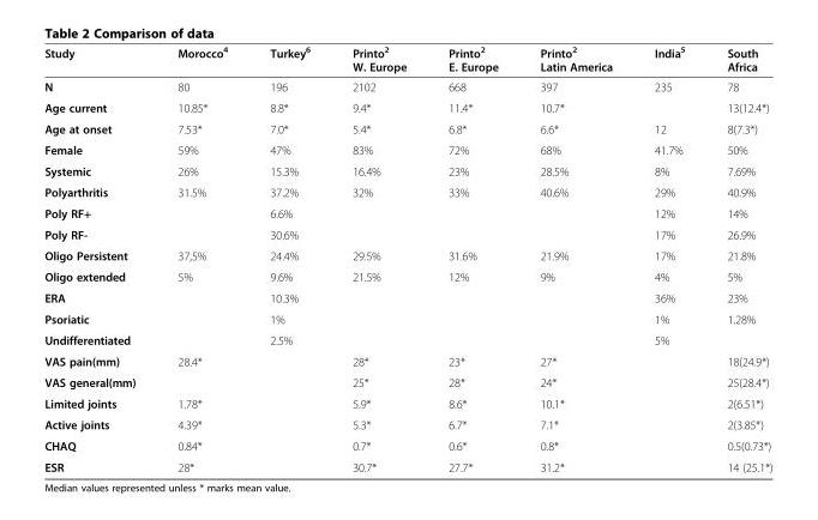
<table><thead><tr><td>Study</td><td>Morocco<sup>4</sup></td><td>Turkey<sup>6</sup></td><td>Printo<sup>2</sup> W. Europe</td><td>Printo<sup>2</sup> E. Europe</td><td>Printo<sup>2</sup> Latin America</td><td>India<sup>5</sup></td><td>South Africa</td></tr></thead><tbody><tr><td>N</td><td>80</td><td>196</td><td>2102</td><td>668</td><td>397</td><td>235</td><td>78</td></tr><tr><td>Age current</td><td>10.85*</td><td>8.8*</td><td>9.4*</td><td>11.4*</td><td>10.7*</td><td></td><td>13(12.4*)</td></tr><tr><td>Age at onset</td><td>7.53*</td><td>7.0*</td><td>5.4*</td><td>6.8*</td><td>6.6*</td><td>12</td><td>8(7.3*)</td></tr><tr><td>Female</td><td>59%</td><td>47%</td><td>83%</td><td>72%</td><td>68%</td><td>41.7%</td><td>50%</td></tr><tr><td>Systemic</td><td>26%</td><td>15.3%</td><td>16.4%</td><td>23%</td><td>28.5%</td><td>8%</td><td>7.69%</td></tr><tr><td>Polyarthritis</td><td>31.5%</td><td>37.2%</td><td>32%</td><td>33%</td><td>40.6%</td><td>29%</td><td>40.9%</td></tr><tr><td>Poly RF+</td><td></td><td>6.6%</td><td></td><td></td><td></td><td>12%</td><td>14%</td></tr><tr><td>Poly RF-</td><td></td><td>30.6%</td><td></td><td></td><td></td><td>17%</td><td>26.9%</td></tr><tr><td>Oligo Persistent</td><td>37,5%</td><td>24.4%</td><td>29.5%</td><td>31.6%</td><td>21.9%</td><td>17%</td><td>21.8%</td></tr><tr><td>Oligo extended</td><td>5%</td><td>9.6%</td><td>21.5%</td><td>12%</td><td>9%</td><td>4%</td><td>5%</td></tr><tr><td>ERA</td><td></td><td>10.3%</td><td></td><td></td><td></td><td>36%</td><td>23%</td></tr><tr><td>Psoriatic</td><td></td><td>1%</td><td></td><td></td><td></td><td>1%</td><td>1.28%</td></tr><tr><td>Undifferentiated</td><td></td><td>2.5%</td><td></td><td></td><td></td><td>5%</td><td></td></tr><tr><td>VAS pain(mm)</td><td>28.4*</td><td></td><td>28*</td><td>23*</td><td>27*</td><td></td><td>18(24.9*)</td></tr><tr><td>VAS general(mm)</td><td></td><td></td><td>25*</td><td>28*</td><td>24*</td><td></td><td>25(28.4*)</td></tr><tr><td>Limited joints</td><td>1.78*</td><td></td><td>5.9*</td><td>8.6*</td><td>10.1*</td><td></td><td>2(6.51*)</td></tr><tr><td>Active joints</td><td>4.39*</td><td></td><td>5.3*</td><td>6.7*</td><td>7.1*</td><td></td><td>2(3.85*)</td></tr><tr><td>CHAQ</td><td>0.84*</td><td></td><td>0.7*</td><td>0.6*</td><td>0.8*</td><td></td><td>0.5(0.73*)</td></tr><tr><td>ESR</td><td>28*</td><td></td><td>30.7*</td><td>27.7*</td><td>31.2*</td><td></td><td>14 (25.1*)</td></tr></tbody></table>